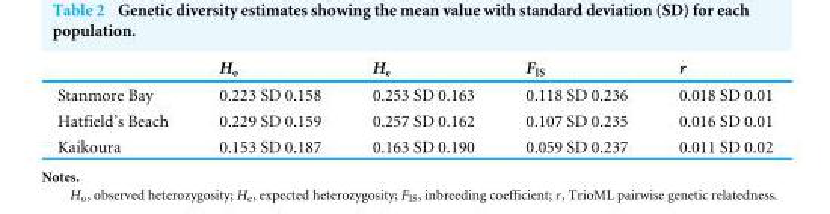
<table><thead><tr><td></td><td>H<sub>o</sub></td><td>H<sub>e</sub></td><td>F<sub>IS</sub></td><td>r</td></tr></thead><tbody><tr><td>Stanmore Bay</td><td>0.223 SD 0.158</td><td>0.253 SD 0.163</td><td>0.118 SD 0.236</td><td>0.018 SD 0.01</td></tr><tr><td>Hatfield’s Beach</td><td>0.229 SD 0.159</td><td>0.257 SD 0.162</td><td>0.107 SD 0.235</td><td>0.016 SD 0.01</td></tr><tr><td>Kaikoura</td><td>0.153 SD 0.187</td><td>0.163 SD 0.190</td><td>0.059 SD 0.237</td><td>0.011 SD 0.02</td></tr></tbody></table>